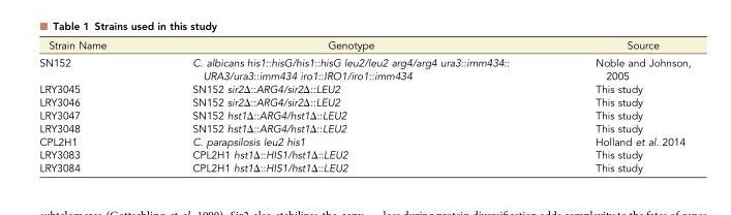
<table><thead><tr><td>Strain Name</td><td>Genotype</td><td>Source</td></tr></thead><tbody><tr><td>SN152</td><td>C. albicans his1::hisG/his1::hisG leu2/leu2 arg4/arg4 ura3::imm434:: URA3/ura3::imm434 iro1::IRO1/iro1::imm434</td><td>Noble and Johnson, 2005</td></tr><tr><td>LRY3045</td><td>SN152 sir2Δ::ARG4/sir2Δ::LEU2</td><td>This study</td></tr><tr><td>LRY3046</td><td>SN152 sir2Δ::ARG4/sir2Δ::LEU2</td><td>This study</td></tr><tr><td>LRY3047</td><td>SN152 hst1Δ::ARG4/hst1Δ::LEU2</td><td>This study</td></tr><tr><td>LRY3048</td><td>SN152 hst1Δ::ARG4/hst1Δ::LEU2</td><td>This study</td></tr><tr><td>CPL2H1</td><td>C. parapsilosis leu2 his1</td><td>Holland et al. 2014</td></tr><tr><td>LRY3083</td><td>CPL2H1 hst1Δ::HIS1/hst1Δ::LEU2</td><td>This study</td></tr><tr><td>LRY3084</td><td>CPL2H1 hst1Δ::HIS1/hst1Δ::LEU2</td><td>This study</td></tr></tbody></table>